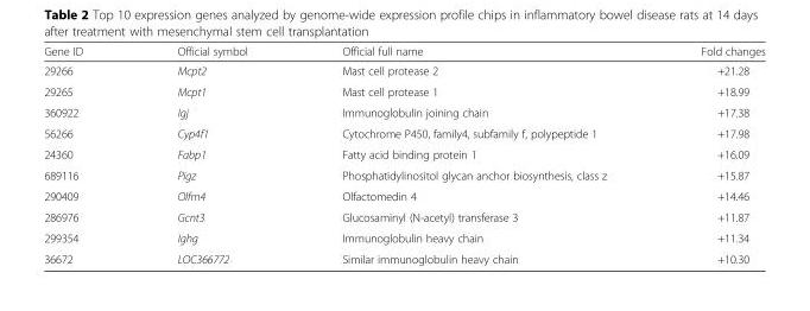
<table><thead><tr><td>Gene ID</td><td>Official symbol</td><td>Official full name</td><td>Fold changes</td></tr></thead><tbody><tr><td>29266</td><td>Mcpt2</td><td>Mast cell protease 2</td><td>+21.28</td></tr><tr><td>29265</td><td>Mcpt1</td><td>Mast cell protease 1</td><td>+18.99</td></tr><tr><td>360922</td><td>Igj</td><td>Immunoglobulin joining chain</td><td>+17.38</td></tr><tr><td>56266</td><td>Cyp4f1</td><td>Cytochrome P450, family4, subfamily f, polypeptide 1</td><td>+17.98</td></tr><tr><td>24360</td><td>Fabp1</td><td>Fatty acid binding protein 1</td><td>+16.09</td></tr><tr><td>689116</td><td>Pigz</td><td>Phosphatidylinositol glycan anchor biosynthesis, class z</td><td>+15.87</td></tr><tr><td>290409</td><td>Olfm4</td><td>Olfactomedin 4</td><td>+14.46</td></tr><tr><td>286976</td><td>Gcnt3</td><td>Glucosaminyl (N-acetyl) transferase 3</td><td>+11.87</td></tr><tr><td>299354</td><td>Ighg</td><td>Immunoglobulin heavy chain</td><td>+11.34</td></tr><tr><td>36672</td><td>LOC366772</td><td>Similar immunoglobulin heavy chain</td><td>+10.30</td></tr></tbody></table>